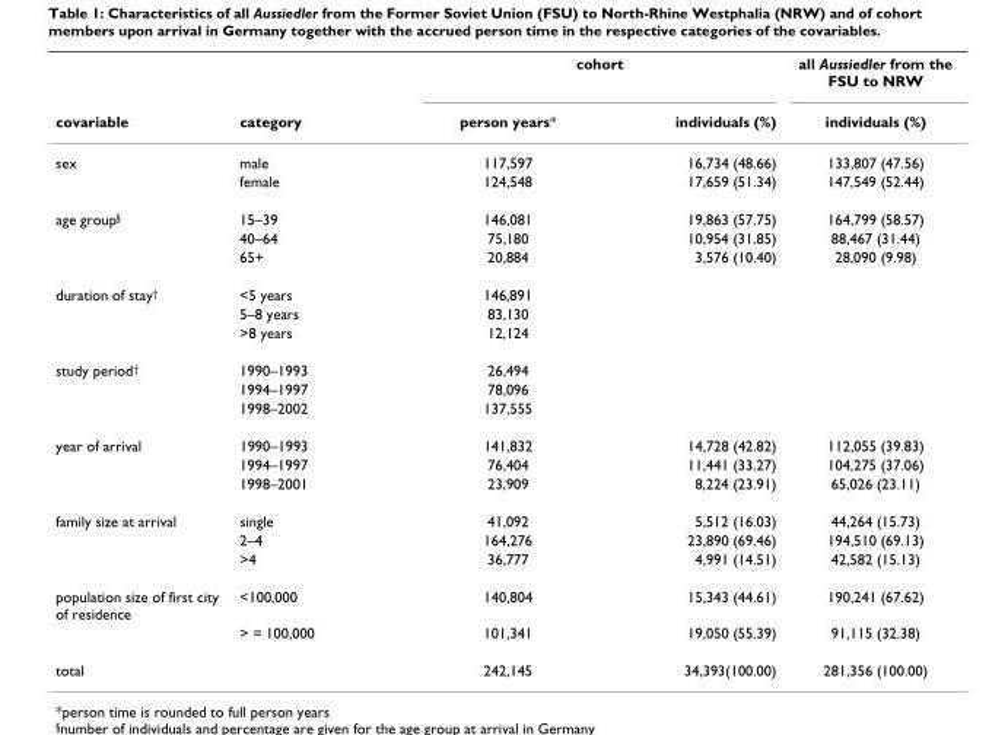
<table><thead><tr><td rowspan="2">covariable</td><td rowspan="2">category</td><td colspan="2">cohort</td><td rowspan="2">all Aussiedler from the FSU to NRW individuals (%)</td></tr><tr><td>person years*</td><td>individuals (%)</td></tr></thead><tbody><tr><td rowspan="2">sex</td><td>male</td><td>117,597</td><td>16,734 (48.66)</td><td>133,807 (47.56)</td></tr><tr><td>female</td><td>124,548</td><td>17,659 (51.34)</td><td>147,549 (52.44)</td></tr><tr><td rowspan="3">age group§</td><td>15–39</td><td>146,081</td><td>19,863 (57.75)</td><td>164,799 (58.57)</td></tr><tr><td>40–64</td><td>75,180</td><td>10,954 (31.85)</td><td>88,467 (31.44)</td></tr><tr><td>65+</td><td>20,884</td><td>3,576 (10.40)</td><td>28,090 (9.98)</td></tr><tr><td rowspan="3">duration of stay†</td><td>&lt;5 years</td><td>146,891</td><td></td><td></td></tr><tr><td>5–8 years</td><td>83,130</td><td></td><td></td></tr><tr><td>&gt;8 years</td><td>12,124</td><td></td><td></td></tr><tr><td rowspan="3">study period†</td><td>1990–1993</td><td>26,494</td><td></td><td></td></tr><tr><td>1994–1997</td><td>78,096</td><td></td><td></td></tr><tr><td>1998–2002</td><td>137,555</td><td></td><td></td></tr><tr><td rowspan="3">year of arrival</td><td>1990–1993</td><td>141,832</td><td>14,728 (42.82)</td><td>112,055 (39.83)</td></tr><tr><td>1994–1997</td><td>76,404</td><td>11,441 (33.27)</td><td>104,275 (37.06)</td></tr><tr><td>1998–2001</td><td>23,909</td><td>8,224 (23.91)</td><td>65,026 (23.11)</td></tr><tr><td rowspan="3">family size at arrival</td><td>single</td><td>41,092</td><td>5,512 (16.03)</td><td>44,264 (15.73)</td></tr><tr><td>2–4</td><td>164,276</td><td>23,890 (69.46)</td><td>194,510 (69.13)</td></tr><tr><td>&gt;4</td><td>36,777</td><td>4,991 (14.51)</td><td>42,582 (15.13)</td></tr><tr><td rowspan="2">population size of first city of residence</td><td>&lt;100,000</td><td>140,804</td><td>15,343 (44.61)</td><td>190,241 (67.62)</td></tr><tr><td>&gt; = 100,000</td><td>101,341</td><td>19,050 (55.39)</td><td>91,115 (32.38)</td></tr><tr><td>total</td><td></td><td>242,145</td><td>34,393(100.00)</td><td>281,356 (100.00)</td></tr></tbody></table>